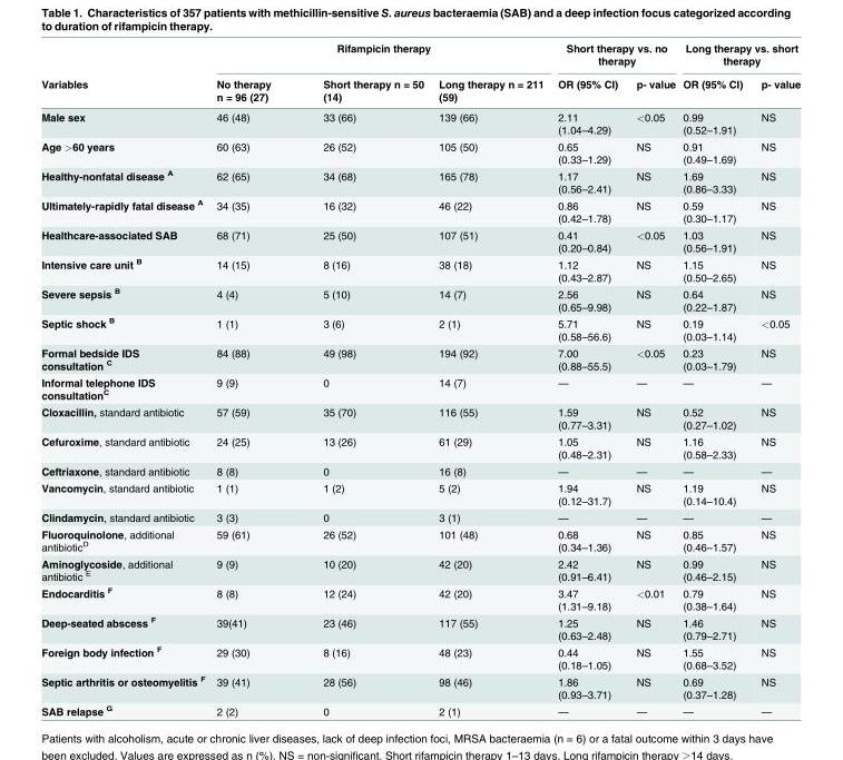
<table><thead><tr><td rowspan="2">Variables</td><td colspan="3">Rifampicin therapy</td><td colspan="2">Short therapy vs. no therapy</td><td colspan="2">Long therapy vs. short therapy</td></tr><tr><td>No therapy n = 96 (27)</td><td>Short therapy n = 50 (14)</td><td>Long therapy n = 211 (59)</td><td>OR (95% CI)</td><td>p- value</td><td>OR (95% CI)</td><td>p- value</td></tr></thead><tbody><tr><td>Male sex</td><td>46 (48)</td><td>33 (66)</td><td>139 (66)</td><td>2.11 (1.04–4.29)</td><td>&lt;0.05</td><td>0.99 (0.52–1.91)</td><td>NS</td></tr><tr><td>Age &gt;60 years</td><td>60 (63)</td><td>26 (52)</td><td>105 (50)</td><td>0.65 (0.33–1.29)</td><td>NS</td><td>0.91 (0.49–1.69)</td><td>NS</td></tr><tr><td>Healthy-nonfatal disease <sup>A</sup></td><td>62 (65)</td><td>34 (68)</td><td>165 (78)</td><td>1.17 (0.56–2.41)</td><td>NS</td><td>1.69 (0.86–3.33)</td><td>NS</td></tr><tr><td>Ultimately-rapidly fatal disease <sup>A</sup></td><td>34 (35)</td><td>16 (32)</td><td>46 (22)</td><td>0.86 (0.42–1.78)</td><td>NS</td><td>0.59 (0.30–1.17)</td><td>NS</td></tr><tr><td>Healthcare-associated SAB</td><td>68 (71)</td><td>25 (50)</td><td>107 (51)</td><td>0.41 (0.20–0.84)</td><td>&lt;0.05</td><td>1.03 (0.56–1.91)</td><td>NS</td></tr><tr><td>Intensive care unit <sup>B</sup></td><td>14 (15)</td><td>8 (16)</td><td>38 (18)</td><td>1.12 (0.43–2.87)</td><td>NS</td><td>1.15 (0.50–2.65)</td><td>NS</td></tr><tr><td>Severe sepsis <sup>B</sup></td><td>4 (4)</td><td>5 (10)</td><td>14 (7)</td><td>2.56 (0.65–9.98)</td><td>NS</td><td>0.64 (0.22–1.87)</td><td>NS</td></tr><tr><td>Septic shock <sup>B</sup></td><td>1 (1)</td><td>3 (6)</td><td>2 (1)</td><td>5.71 (0.58–56.6)</td><td>NS</td><td>0.19 (0.03–1.14)</td><td>&lt;0.05</td></tr><tr><td>Formal bedside IDS consultation <sup>C</sup></td><td>84 (88)</td><td>49 (98)</td><td>194 (92)</td><td>7.00 (0.88–55.5)</td><td>&lt;0.05</td><td>0.23 (0.03–1.79)</td><td>NS</td></tr><tr><td>Informal telephone IDS consultation<sup>C</sup></td><td>9 (9)</td><td>0</td><td>14 (7)</td><td>—</td><td>—</td><td>—</td><td>—</td></tr><tr><td>Cloxacillin, standard antibiotic</td><td>57 (59)</td><td>35 (70)</td><td>116 (55)</td><td>1.59 (0.77–3.31)</td><td>NS</td><td>0.52 (0.27–1.02)</td><td>NS</td></tr><tr><td>Cefuroxime, standard antibiotic</td><td>24 (25)</td><td>13 (26)</td><td>61 (29)</td><td>1.05 (0.48–2.31)</td><td>NS</td><td>1.16 (0.58–2.33)</td><td>NS</td></tr><tr><td>Ceftriaxone, standard antibiotic</td><td>8 (8)</td><td>0</td><td>16 (8)</td><td>—</td><td>—</td><td>—</td><td>—</td></tr><tr><td>Vancomycin, standard antibiotic</td><td>1 (1)</td><td>1 (2)</td><td>5 (2)</td><td>1.94 (0.12–31.7)</td><td>NS</td><td>1.19 (0.14–10.4)</td><td>NS</td></tr><tr><td>Clindamycin, standard antibiotic</td><td>3 (3)</td><td>0</td><td>3 (1)</td><td>—</td><td>—</td><td>—</td><td>—</td></tr><tr><td>Fluoroquinolone, additional antibiotic<sup>D</sup></td><td>59 (61)</td><td>26 (52)</td><td>101 (48)</td><td>0.68 (0.34–1.36)</td><td>NS</td><td>0.85 (0.46–1.57)</td><td>NS</td></tr><tr><td>Aminoglycoside, additional antibiotic <sup>E</sup></td><td>9 (9)</td><td>10 (20)</td><td>42 (20)</td><td>2.42 (0.91–6.41)</td><td>NS</td><td>0.99 (0.46–2.15)</td><td>NS</td></tr><tr><td>Endocarditis <sup>F</sup></td><td>8 (8)</td><td>12 (24)</td><td>42 (20)</td><td>3.47 (1.31–9.18)</td><td>&lt;0.01</td><td>0.79 (0.38–1.64)</td><td>NS</td></tr><tr><td>Deep-seated abscess <sup>F</sup></td><td>39(41)</td><td>23 (46)</td><td>117 (55)</td><td>1.25 (0.63–2.48)</td><td>NS</td><td>1.46 (0.79–2.71)</td><td>NS</td></tr><tr><td>Foreign body infection <sup>F</sup></td><td>29 (30)</td><td>8 (16)</td><td>48 (23)</td><td>0.44 (0.18–1.05)</td><td>NS</td><td>1.55 (0.68–3.52)</td><td>NS</td></tr><tr><td>Septic arthritis or osteomyelitis <sup>F</sup></td><td>39 (41)</td><td>28 (56)</td><td>98 (46)</td><td>1.86 (0.93–3.71)</td><td>NS</td><td>0.69 (0.37–1.28)</td><td>NS</td></tr><tr><td>SAB relapse <sup>G</sup></td><td>2 (2)</td><td>0</td><td>2 (1)</td><td>—</td><td>—</td><td>—</td><td>—</td></tr></tbody></table>